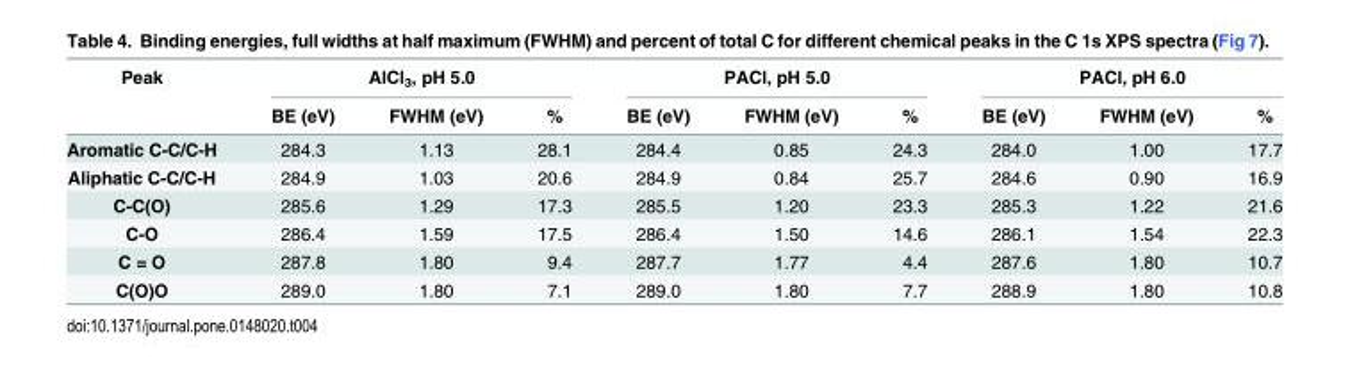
<table><thead><tr><td rowspan="2">Peak</td><td colspan="3">AlCl<sub>3</sub>, pH 5.0</td><td colspan="3">PACl, pH 5.0</td><td colspan="3">PACl, pH 6.0</td></tr><tr><td>BE (eV)</td><td>FWHM (eV)</td><td>%</td><td>BE (eV)</td><td>FWHM (eV)</td><td>%</td><td>BE (eV)</td><td>FWHM (eV)</td><td>%</td></tr></thead><tbody><tr><td>Aromatic C-C/C-H</td><td>284.3</td><td>1.13</td><td>28.1</td><td>284.4</td><td>0.85</td><td>24.3</td><td>284.0</td><td>1.00</td><td>17.7</td></tr><tr><td>Aliphatic C-C/C-H</td><td>284.9</td><td>1.03</td><td>20.6</td><td>284.9</td><td>0.84</td><td>25.7</td><td>284.6</td><td>0.90</td><td>16.9</td></tr><tr><td>C-C(O)</td><td>285.6</td><td>1.29</td><td>17.3</td><td>285.5</td><td>1.20</td><td>23.3</td><td>285.3</td><td>1.22</td><td>21.6</td></tr><tr><td>C-O</td><td>286.4</td><td>1.59</td><td>17.5</td><td>286.4</td><td>1.50</td><td>14.6</td><td>286.1</td><td>1.54</td><td>22.3</td></tr><tr><td>C = O</td><td>287.8</td><td>1.80</td><td>9.4</td><td>287.7</td><td>1.77</td><td>4.4</td><td>287.6</td><td>1.80</td><td>10.7</td></tr><tr><td>C(O)O</td><td>289.0</td><td>1.80</td><td>7.1</td><td>289.0</td><td>1.80</td><td>7.7</td><td>288.9</td><td>1.80</td><td>10.8</td></tr></tbody></table>